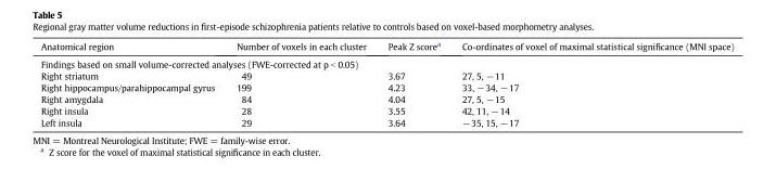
<table><thead><tr><td>Anatomical region</td><td>Number of voxels in each cluster</td><td>Peak Z score<sup>a</sup></td><td>Co-ordinates of voxel of maximal statistical significance (MNI space)</td></tr></thead><tbody><tr><td colspan="4">Findings based on small volume-corrected analyses (FWE-corrected at p &lt; 0.05)</td></tr><tr><td>Right striatum</td><td>49</td><td>3.67</td><td>27, 5, −11</td></tr><tr><td>Right hippocampus/parahippocampal gyrus</td><td>199</td><td>4.23</td><td>33, −34, −17</td></tr><tr><td>Right amygdala</td><td>84</td><td>4.04</td><td>27, 5, −15</td></tr><tr><td>Right insula</td><td>28</td><td>3.55</td><td>42, 11, −14</td></tr><tr><td>Left insula</td><td>29</td><td>3.64</td><td>−35, 15, −17</td></tr></tbody></table>